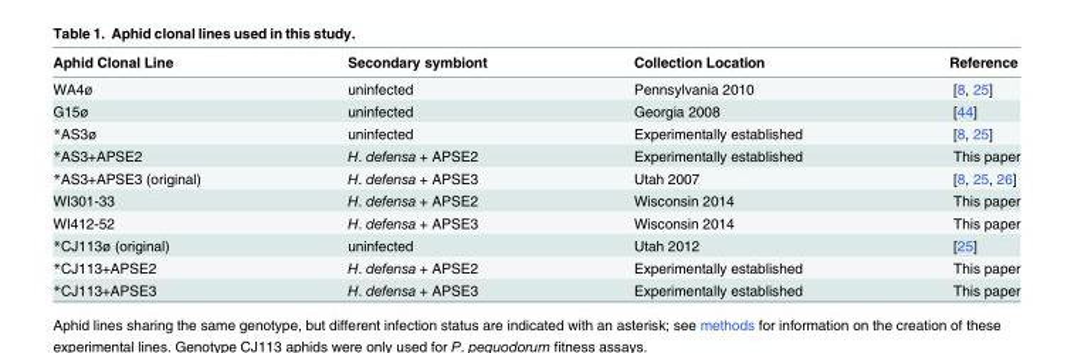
<table><thead><tr><td>Aphid Clonal Line</td><td>Secondary symbiont</td><td>Collection Location</td><td>Reference</td></tr></thead><tbody><tr><td>WA4ø</td><td>uninfected</td><td>Pennsylvania 2010</td><td>[8, 25]</td></tr><tr><td>G15ø</td><td>uninfected</td><td>Georgia 2008</td><td>[44]</td></tr><tr><td>*AS3ø</td><td>uninfected</td><td>Experimentally established</td><td>[8, 25]</td></tr><tr><td>*AS3+APSE2</td><td>H. defensa + APSE2</td><td>Experimentally established</td><td>This paper</td></tr><tr><td>*AS3+APSE3 (original)</td><td>H. defensa + APSE3</td><td>Utah 2007</td><td>[8, 25, 26]</td></tr><tr><td>WI301-33</td><td>H. defensa + APSE2</td><td>Wisconsin 2014</td><td>This paper</td></tr><tr><td>WI412-52</td><td>H. defensa + APSE3</td><td>Wisconsin 2014</td><td>This paper</td></tr><tr><td>*CJ113ø (original)</td><td>uninfected</td><td>Utah 2012</td><td>[25]</td></tr><tr><td>*CJ113+APSE2</td><td>H. defensa + APSE2</td><td>Experimentally established</td><td>This paper</td></tr><tr><td>*CJ113+APSE3</td><td>H. defensa + APSE3</td><td>Experimentally established</td><td>This paper</td></tr></tbody></table>